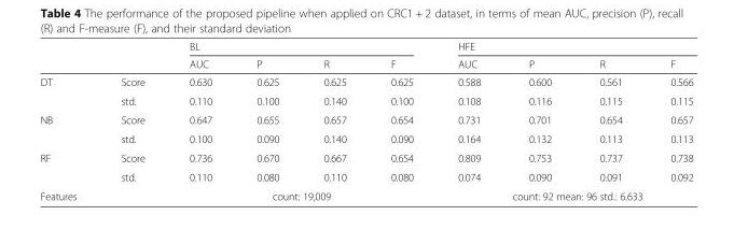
<table><thead><tr><td rowspan="2"></td><td rowspan="2"></td><td colspan="4">BL</td><td colspan="4">HFE</td></tr><tr><td>AUC</td><td>P</td><td>R</td><td>F</td><td>AUC</td><td>P</td><td>R</td><td>F</td></tr></thead><tbody><tr><td rowspan="2">DT</td><td>Score</td><td>0.630</td><td>0.625</td><td>0.625</td><td>0.625</td><td>0.588</td><td>0.600</td><td>0.561</td><td>0.566</td></tr><tr><td>std.</td><td>0.110</td><td>0.100</td><td>0.140</td><td>0.100</td><td>0.108</td><td>0.116</td><td>0.115</td><td>0.115</td></tr><tr><td rowspan="2">NB</td><td>Score</td><td>0.647</td><td>0.655</td><td>0.657</td><td>0.654</td><td>0.731</td><td>0.701</td><td>0.654</td><td>0.657</td></tr><tr><td>std.</td><td>0.100</td><td>0.090</td><td>0.140</td><td>0.090</td><td>0.164</td><td>0.132</td><td>0.113</td><td>0.113</td></tr><tr><td rowspan="2">RF</td><td>Score</td><td>0.736</td><td>0.670</td><td>0.667</td><td>0.654</td><td>0.809</td><td>0.753</td><td>0.737</td><td>0.738</td></tr><tr><td>std.</td><td>0.110</td><td>0.080</td><td>0.110</td><td>0.080</td><td>0.074</td><td>0.090</td><td>0.091</td><td>0.092</td></tr><tr><td>Features</td><td></td><td colspan="4">count: 19,009</td><td colspan="4">count: 92 mean: 96 std.: 6.633</td></tr></tbody></table>